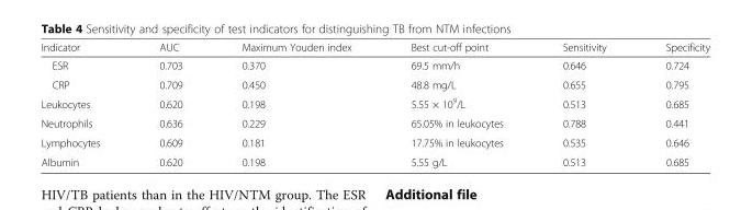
<table><thead><tr><td>Indicator</td><td>AUC</td><td>Maximum Youden index</td><td>Best cut-off point</td><td>Sensitivity</td><td>Specificity</td></tr></thead><tbody><tr><td>ESR</td><td>0.703</td><td>0.370</td><td>69.5 mm/h</td><td>0.646</td><td>0.724</td></tr><tr><td>CRP</td><td>0.709</td><td>0.450</td><td>48.8 mg/L</td><td>0.655</td><td>0.795</td></tr><tr><td>Leukocytes</td><td>0.620</td><td>0.198</td><td>5.55 × 10<sup>9</sup>/L</td><td>0.513</td><td>0.685</td></tr><tr><td>Neutrophils</td><td>0.636</td><td>0.229</td><td>65.05% in leukocytes</td><td>0.788</td><td>0.441</td></tr><tr><td>Lymphocytes</td><td>0.609</td><td>0.181</td><td>17.75% in leukocytes</td><td>0.535</td><td>0.646</td></tr><tr><td>Albumin</td><td>0.620</td><td>0.198</td><td>5.55 g/L</td><td>0.513</td><td>0.685</td></tr></tbody></table>